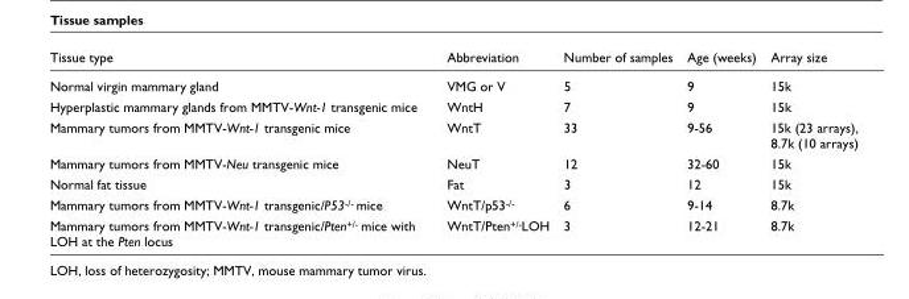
<table><thead><tr><td>Tissue type</td><td>Abbreviation</td><td>Number of samples</td><td>Age (weeks)</td><td>Array size</td></tr></thead><tbody><tr><td>Normal virgin mammary gland</td><td>VMG or V</td><td>5</td><td>9</td><td>15k</td></tr><tr><td>Hyperplastic mammary glands from MMTV-Wnt-1 transgenic mice</td><td>WntH</td><td>7</td><td>9</td><td>15k</td></tr><tr><td>Mammary tumors from MMTV-Wnt-1 transgenic mice</td><td>WntT</td><td>33</td><td>9-56</td><td>15k (23 arrays), 8.7k (10 arrays)</td></tr><tr><td>Mammary tumors from MMTV-Neu transgenic mice</td><td>NeuT</td><td>12</td><td>32-60</td><td>15k</td></tr><tr><td>Normal fat tissue</td><td>Fat</td><td>3</td><td>12</td><td>15k</td></tr><tr><td>Mammary tumors from MMTV-Wnt-1 transgenic/P53-/- mice</td><td>WntT/p53-/-</td><td>6</td><td>9-14</td><td>8.7k</td></tr><tr><td>Mammary tumors from MMTV-Wnt-1 transgenic/Pten+/- mice with LOH at the Pten locus</td><td>WntT/Pten+/-LOH</td><td>3</td><td>12-21</td><td>8.7k</td></tr></tbody></table>